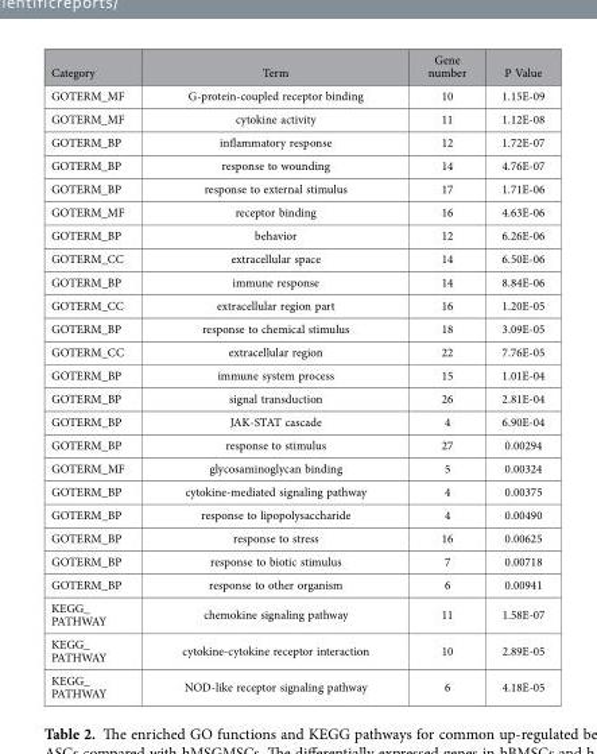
<table><thead><tr><td>Category</td><td>Term</td><td>Gene number</td><td>P Value</td></tr></thead><tbody><tr><td>GOTERM_MF</td><td>G-protein-coupled receptor binding</td><td>10</td><td>1.15E-09</td></tr><tr><td>GOTERM_MF</td><td>cytokine activity</td><td>11</td><td>1.12E-08</td></tr><tr><td>GOTERM_BP</td><td>inflammatory response</td><td>12</td><td>1.72E-07</td></tr><tr><td>GOTERM_BP</td><td>response to wounding</td><td>14</td><td>4.76E-07</td></tr><tr><td>GOTERM_BP</td><td>response to external stimulus</td><td>17</td><td>1.71E-06</td></tr><tr><td>GOTERM_MF</td><td>receptor binding</td><td>16</td><td>4.63E-06</td></tr><tr><td>GOTERM_BP</td><td>behavior</td><td>12</td><td>6.26E-06</td></tr><tr><td>GOTERM_CC</td><td>extracellular space</td><td>14</td><td>6.50E-06</td></tr><tr><td>GOTERM_BP</td><td>immune response</td><td>14</td><td>8.84E-06</td></tr><tr><td>GOTERM_CC</td><td>extracellular region part</td><td>16</td><td>1.20E-05</td></tr><tr><td>GOTERM_BP</td><td>response to chemical stimulus</td><td>18</td><td>3.09E-05</td></tr><tr><td>GOTERM_CC</td><td>extracellular region</td><td>22</td><td>7.76E-05</td></tr><tr><td>GOTERM_BP</td><td>immune system process</td><td>15</td><td>1.01E-04</td></tr><tr><td>GOTERM_BP</td><td>signal transduction</td><td>26</td><td>2.81E-04</td></tr><tr><td>GOTERM_BP</td><td>JAK-STAT cascade</td><td>4</td><td>6.90E-04</td></tr><tr><td>GOTERM_BP</td><td>response to stimulus</td><td>27</td><td>0.00294</td></tr><tr><td>GOTERM_MF</td><td>glycosaminoglycan binding</td><td>5</td><td>0.00324</td></tr><tr><td>GOTERM_BP</td><td>cytokine-mediated signaling pathway</td><td>4</td><td>0.00375</td></tr><tr><td>GOTERM_BP</td><td>response to lipopolysaccharide</td><td>4</td><td>0.00490</td></tr><tr><td>GOTERM_BP</td><td>response to stress</td><td>16</td><td>0.00625</td></tr><tr><td>GOTERM_BP</td><td>response to biotic stimulus</td><td>7</td><td>0.00718</td></tr><tr><td>GOTERM_BP</td><td>response to other organism</td><td>6</td><td>0.00941</td></tr><tr><td>KEGG_ PATHWAY</td><td>chemokine signaling pathway</td><td>11</td><td>1.58E-07</td></tr><tr><td>KEGG_ PATHWAY</td><td>cytokine-cytokine receptor interaction</td><td>10</td><td>2.89E-05</td></tr><tr><td>KEGG_ PATHWAY</td><td>NOD-like receptor signaling pathway</td><td>6</td><td>4.18E-05</td></tr></tbody></table>